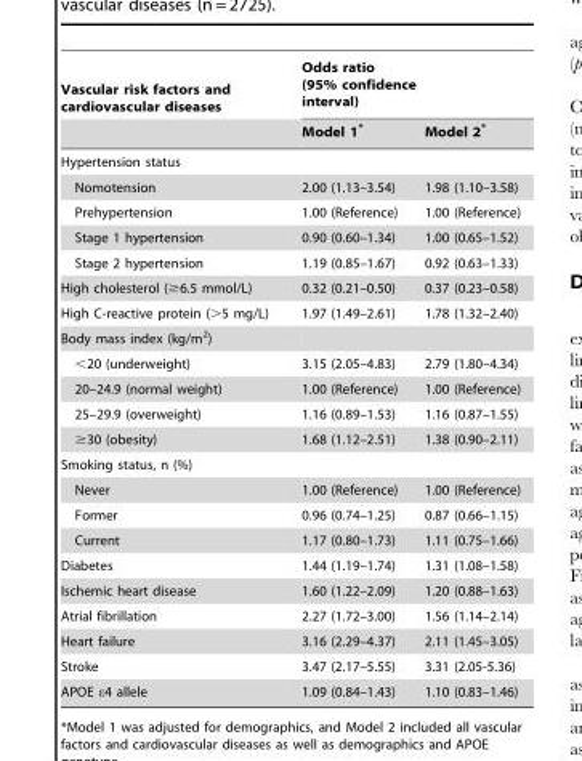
<table><thead><tr><td rowspan="2">Vascular risk factors and cardiovascular diseases</td><td colspan="2">Odds ratio (95% confidence interval)</td></tr><tr><td>Model 1*</td><td>Model 2*</td></tr></thead><tbody><tr><td colspan="3">Hypertension status</td></tr><tr><td>Nomotension</td><td>2.00 (1.13–3.54)</td><td>1.98 (1.10–3.58)</td></tr><tr><td>Prehypertension</td><td>1.00 (Reference)</td><td>1.00 (Reference)</td></tr><tr><td>Stage 1 hypertension</td><td>0.90 (0.60–1.34)</td><td>1.00 (0.65–1.52)</td></tr><tr><td>Stage 2 hypertension</td><td>1.19 (0.85–1.67)</td><td>0.92 (0.63–1.33)</td></tr><tr><td>High cholesterol (≥6.5 mmol/L)</td><td>0.32 (0.21–0.50)</td><td>0.37 (0.23–0.58)</td></tr><tr><td>High C-reactive protein (&gt;5 mg/L)</td><td>1.97 (1.49–2.61)</td><td>1.78 (1.32–2.40)</td></tr><tr><td colspan="3">Body mass index (kg/m<sup>2</sup>)</td></tr><tr><td>&lt;20 (underweight)</td><td>3.15 (2.05–4.83)</td><td>2.79 (1.80–4.34)</td></tr><tr><td>20–24.9 (normal weight)</td><td>1.00 (Reference)</td><td>1.00 (Reference)</td></tr><tr><td>25–29.9 (overweight)</td><td>1.16 (0.89–1.53)</td><td>1.16 (0.87–1.55)</td></tr><tr><td>≥30 (obesity)</td><td>1.68 (1.12–2.51)</td><td>1.38 (0.90–2.11)</td></tr><tr><td colspan="3">Smoking status, n (%)</td></tr><tr><td>Never</td><td>1.00 (Reference)</td><td>1.00 (Reference)</td></tr><tr><td>Former</td><td>0.96 (0.74–1.25)</td><td>0.87 (0.66–1.15)</td></tr><tr><td>Current</td><td>1.17 (0.80–1.73)</td><td>1.11 (0.75–1.66)</td></tr><tr><td>Diabetes</td><td>1.44 (1.19–1.74)</td><td>1.31 (1.08–1.58)</td></tr><tr><td>Ischemic heart disease</td><td>1.60 (1.22–2.09)</td><td>1.20 (0.88–1.63)</td></tr><tr><td>Atrial fibrillation</td><td>2.27 (1.72–3.00)</td><td>1.56 (1.14–2.14)</td></tr><tr><td>Heart failure</td><td>3.16 (2.29–4.37)</td><td>2.11 (1.45–3.05)</td></tr><tr><td>Stroke</td><td>3.47 (2.17–5.55)</td><td>3.31 (2.05-5.36)</td></tr><tr><td>APOE ε4 allele</td><td>1.09 (0.84–1.43)</td><td>1.10 (0.83–1.46)</td></tr></tbody></table>